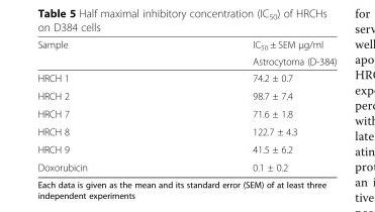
<table><thead><tr><td rowspan="2">Sample</td><td rowspan="2">IC<sub>50</sub> ± SEM μg/ml Astrocytoma (D-384)</td></tr><tr></tr></thead><tbody><tr><td>HRCH 1</td><td>74.2 ± 0.7</td></tr><tr><td>HRCH 2</td><td>98.7 ± 7.4</td></tr><tr><td>HRCH 7</td><td>71.6 ± 1.8</td></tr><tr><td>HRCH 8</td><td>122.7 ± 4.3</td></tr><tr><td>HRCH 9</td><td>41.5 ± 6.2</td></tr><tr><td>Doxorubicin</td><td>0.1 ± 0.2</td></tr></tbody></table>